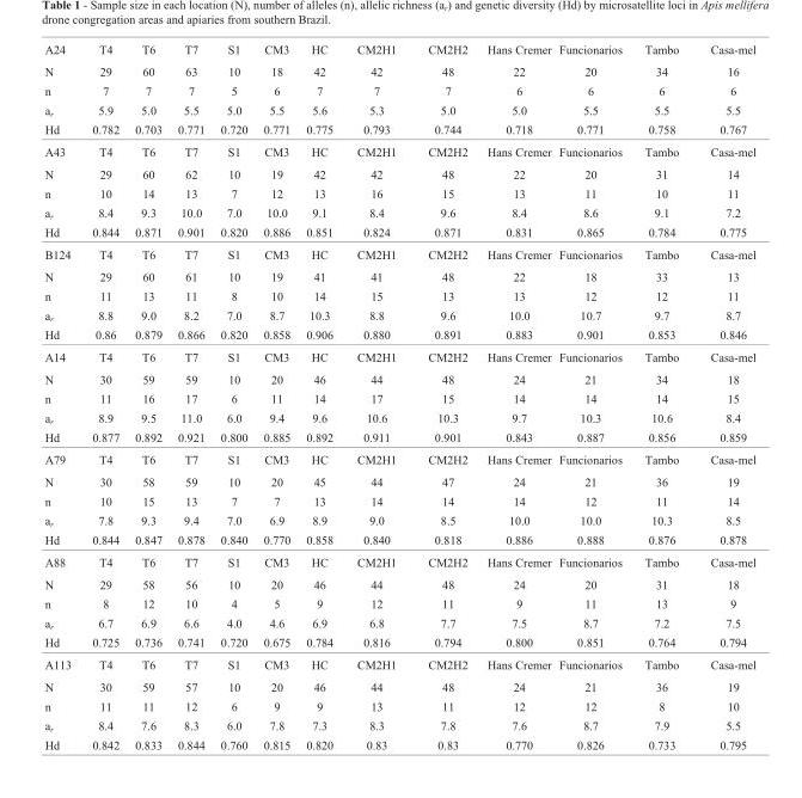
<table><thead><tr><td>A24</td><td>T4</td><td>T6</td><td>T7</td><td>S1</td><td>CM3</td><td>HC</td><td>CM2H1</td><td>CM2H2</td><td>Hans Cremer</td><td>Funcionarios</td><td>Tambo</td><td>Casa-mel</td></tr></thead><tbody><tr><td>N</td><td>29</td><td>60</td><td>63</td><td>10</td><td>18</td><td>42</td><td>42</td><td>48</td><td>22</td><td>20</td><td>34</td><td>16</td></tr><tr><td>n</td><td>7</td><td>7</td><td>7</td><td>5</td><td>6</td><td>7</td><td>7</td><td>7</td><td>6</td><td>6</td><td>6</td><td>6</td></tr><tr><td>a<sub>r</sub></td><td>5.9</td><td>5.0</td><td>5.5</td><td>5.0</td><td>5.5</td><td>5.6</td><td>5.3</td><td>5.0</td><td>5.0</td><td>5.5</td><td>5.5</td><td>5.5</td></tr><tr><td>Hd</td><td>0.782</td><td>0.703</td><td>0.771</td><td>0.720</td><td>0.771</td><td>0.775</td><td>0.793</td><td>0.744</td><td>0.718</td><td>0.771</td><td>0.758</td><td>0.767</td></tr><tr><td>A43</td><td>T4</td><td>T6</td><td>T7</td><td>S1</td><td>CM3</td><td>HC</td><td>CM2H1</td><td>CM2H2</td><td>Hans Cremer</td><td>Funcionarios</td><td>Tambo</td><td>Casa-mel</td></tr><tr><td>N</td><td>29</td><td>60</td><td>62</td><td>10</td><td>19</td><td>42</td><td>42</td><td>48</td><td>22</td><td>20</td><td>31</td><td>14</td></tr><tr><td>n</td><td>10</td><td>14</td><td>13</td><td>7</td><td>12</td><td>13</td><td>16</td><td>15</td><td>13</td><td>11</td><td>10</td><td>11</td></tr><tr><td>a<sub>r</sub></td><td>8.4</td><td>9.3</td><td>10.0</td><td>7.0</td><td>10.0</td><td>9.1</td><td>8.4</td><td>9.6</td><td>8.4</td><td>8.6</td><td>9.1</td><td>7.2</td></tr><tr><td>Hd</td><td>0.844</td><td>0.871</td><td>0.901</td><td>0.820</td><td>0.886</td><td>0.851</td><td>0.824</td><td>0.871</td><td>0.831</td><td>0.865</td><td>0.784</td><td>0.775</td></tr><tr><td>B124</td><td>T4</td><td>T6</td><td>T7</td><td>S1</td><td>CM3</td><td>HC</td><td>CM2H1</td><td>CM2H2</td><td>Hans Cremer</td><td>Funcionarios</td><td>Tambo</td><td>Casa-mel</td></tr><tr><td>N</td><td>29</td><td>60</td><td>61</td><td>10</td><td>19</td><td>41</td><td>41</td><td>48</td><td>22</td><td>18</td><td>33</td><td>13</td></tr><tr><td>n</td><td>11</td><td>13</td><td>11</td><td>8</td><td>10</td><td>14</td><td>15</td><td>13</td><td>13</td><td>12</td><td>12</td><td>11</td></tr><tr><td>a<sub>r</sub></td><td>8.8</td><td>9.0</td><td>8.2</td><td>7.0</td><td>8.7</td><td>10.3</td><td>8.8</td><td>9.6</td><td>10.0</td><td>10.7</td><td>9.7</td><td>8.7</td></tr><tr><td>Hd</td><td>0.86</td><td>0.879</td><td>0.866</td><td>0.820</td><td>0.858</td><td>0.906</td><td>0.880</td><td>0.891</td><td>0.883</td><td>0.901</td><td>0.853</td><td>0.846</td></tr><tr><td>A14</td><td>T4</td><td>T6</td><td>T7</td><td>S1</td><td>CM3</td><td>HC</td><td>CM2H1</td><td>CM2H2</td><td>Hans Cremer</td><td>Funcionarios</td><td>Tambo</td><td>Casa-mel</td></tr><tr><td>N</td><td>30</td><td>59</td><td>59</td><td>10</td><td>20</td><td>46</td><td>44</td><td>48</td><td>24</td><td>21</td><td>34</td><td>18</td></tr><tr><td>n</td><td>11</td><td>16</td><td>17</td><td>6</td><td>11</td><td>14</td><td>17</td><td>15</td><td>14</td><td>14</td><td>14</td><td>15</td></tr><tr><td>a<sub>r</sub></td><td>8.9</td><td>9.5</td><td>11.0</td><td>6.0</td><td>9.4</td><td>9.6</td><td>10.6</td><td>10.3</td><td>9.7</td><td>10.3</td><td>10.6</td><td>8.4</td></tr><tr><td>Hd</td><td>0.877</td><td>0.892</td><td>0.921</td><td>0.800</td><td>0.885</td><td>0.892</td><td>0.911</td><td>0.901</td><td>0.843</td><td>0.887</td><td>0.856</td><td>0.859</td></tr><tr><td>A79</td><td>T4</td><td>T6</td><td>T7</td><td>S1</td><td>CM3</td><td>HC</td><td>CM2H1</td><td>CM2H2</td><td>Hans Cremer</td><td>Funcionarios</td><td>Tambo</td><td>Casa-mel</td></tr><tr><td>N</td><td>30</td><td>58</td><td>59</td><td>10</td><td>20</td><td>45</td><td>44</td><td>47</td><td>24</td><td>21</td><td>36</td><td>19</td></tr><tr><td>n</td><td>10</td><td>15</td><td>13</td><td>7</td><td>7</td><td>13</td><td>14</td><td>14</td><td>14</td><td>12</td><td>11</td><td>14</td></tr><tr><td>a<sub>r</sub></td><td>7.8</td><td>9.3</td><td>9.4</td><td>7.0</td><td>6.9</td><td>8.9</td><td>9.0</td><td>8.5</td><td>10.0</td><td>10.0</td><td>10.3</td><td>8.5</td></tr><tr><td>Hd</td><td>0.844</td><td>0.847</td><td>0.878</td><td>0.840</td><td>0.770</td><td>0.858</td><td>0.840</td><td>0.818</td><td>0.886</td><td>0.888</td><td>0.876</td><td>0.878</td></tr><tr><td>A88</td><td>T4</td><td>T6</td><td>T7</td><td>S1</td><td>CM3</td><td>HC</td><td>CM2H1</td><td>CM2H2</td><td>Hans Cremer</td><td>Funcionarios</td><td>Tambo</td><td>Casa-mel</td></tr><tr><td>N</td><td>29</td><td>58</td><td>56</td><td>10</td><td>20</td><td>46</td><td>44</td><td>48</td><td>24</td><td>20</td><td>31</td><td>18</td></tr><tr><td>n</td><td>8</td><td>12</td><td>10</td><td>4</td><td>5</td><td>9</td><td>12</td><td>11</td><td>9</td><td>11</td><td>13</td><td>9</td></tr><tr><td>a<sub>r</sub></td><td>6.7</td><td>6.9</td><td>6.6</td><td>4.0</td><td>4.6</td><td>6.9</td><td>6.8</td><td>7.7</td><td>7.5</td><td>8.7</td><td>7.2</td><td>7.5</td></tr><tr><td>Hd</td><td>0.725</td><td>0.736</td><td>0.741</td><td>0.720</td><td>0.675</td><td>0.784</td><td>0.816</td><td>0.794</td><td>0.800</td><td>0.851</td><td>0.764</td><td>0.794</td></tr><tr><td>A113</td><td>T4</td><td>T6</td><td>T7</td><td>S1</td><td>CM3</td><td>HC</td><td>CM2H1</td><td>CM2H2</td><td>Hans Cremer</td><td>Funcionarios</td><td>Tambo</td><td>Casa-mel</td></tr><tr><td>N</td><td>30</td><td>59</td><td>57</td><td>10</td><td>20</td><td>46</td><td>44</td><td>48</td><td>24</td><td>21</td><td>36</td><td>19</td></tr><tr><td>n</td><td>11</td><td>11</td><td>12</td><td>6</td><td>9</td><td>9</td><td>13</td><td>11</td><td>12</td><td>12</td><td>8</td><td>10</td></tr><tr><td>a<sub>r</sub></td><td>8.4</td><td>7.6</td><td>8.3</td><td>6.0</td><td>7.8</td><td>7.3</td><td>8.3</td><td>7.8</td><td>7.6</td><td>8.7</td><td>7.9</td><td>5.5</td></tr><tr><td>Hd</td><td>0.842</td><td>0.833</td><td>0.844</td><td>0.760</td><td>0.815</td><td>0.820</td><td>0.83</td><td>0.83</td><td>0.770</td><td>0.826</td><td>0.733</td><td>0.795</td></tr></tbody></table>